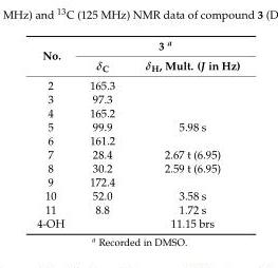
<table><thead><tr><td rowspan="2">No.</td><td colspan="2">3 <sup>a</sup></td></tr><tr><td>δ<sub>C</sub></td><td>δ<sub>H</sub>, Mult. (J in Hz)</td></tr></thead><tbody><tr><td>2</td><td>165.3</td><td></td></tr><tr><td>3</td><td>97.3</td><td></td></tr><tr><td>4</td><td>165.2</td><td></td></tr><tr><td>5</td><td>99.9</td><td>5.98 s</td></tr><tr><td>6</td><td>161.2</td><td></td></tr><tr><td>7</td><td>28.4</td><td>2.67 t (6.95)</td></tr><tr><td>8</td><td>30.2</td><td>2.59 t (6.95)</td></tr><tr><td>9</td><td>172.4</td><td></td></tr><tr><td>10</td><td>52.0</td><td>3.58 s</td></tr><tr><td>11</td><td>8.8</td><td>1.72 s</td></tr><tr><td>4-OH</td><td></td><td>11.15 brs</td></tr></tbody></table>